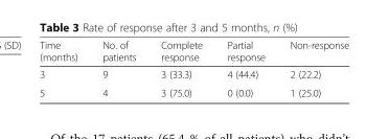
<table><thead><tr><td>Time (months)</td><td>No. of patients</td><td>Complete response</td><td>Partial response</td><td>Non-response</td></tr></thead><tbody><tr><td>3</td><td>9</td><td>3 (33.3)</td><td>4 (44.4)</td><td>2 (22.2)</td></tr><tr><td>5</td><td>4</td><td>3 (75.0)</td><td>0 (0.0)</td><td>1 (25.0)</td></tr></tbody></table>